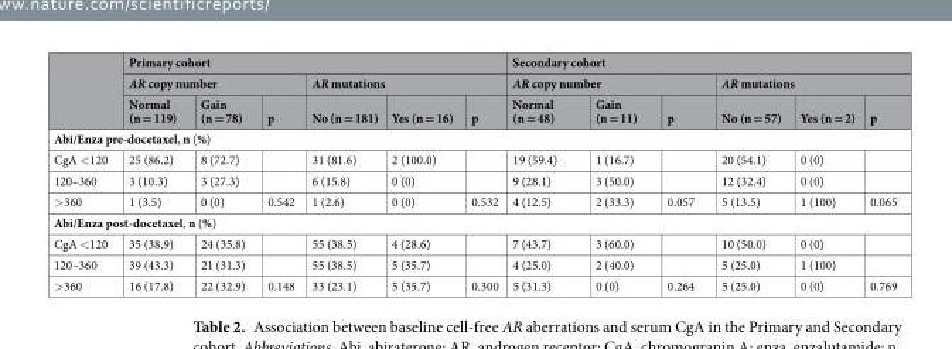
<table><thead><tr><td rowspan="3"></td><td colspan="6">Primary cohort</td><td colspan="6">Secondary cohort</td></tr><tr><td colspan="3">AR copy number</td><td colspan="3">AR mutations</td><td colspan="3">AR copy number</td><td colspan="3">AR mutations</td></tr><tr><td>Normal (n = 119)</td><td>Gain (n = 78)</td><td>p</td><td>No (n = 181)</td><td>Yes (n = 16)</td><td>p</td><td>Normal (n = 48)</td><td>Gain (n = 11)</td><td>p</td><td>No (n = 57)</td><td>Yes (n = 2)</td><td>p</td></tr></thead><tbody><tr><td colspan="13">Abi/Enza pre-docetaxel, n (%)</td></tr><tr><td>CgA &lt;120</td><td>25 (86.2)</td><td>8 (72.7)</td><td></td><td>31 (81.6)</td><td>2 (100.0)</td><td></td><td>19 (59.4)</td><td>1 (16.7)</td><td></td><td>20 (54.1)</td><td>0 (0)</td><td></td></tr><tr><td>120–360</td><td>3 (10.3)</td><td>3 (27.3)</td><td></td><td>6 (15.8)</td><td>0 (0)</td><td></td><td>9 (28.1)</td><td>3 (50.0)</td><td></td><td>12 (32.4)</td><td>0 (0)</td><td></td></tr><tr><td>&gt;360</td><td>1 (3.5)</td><td>0 (0)</td><td>0.542</td><td>1 (2.6)</td><td>0 (0)</td><td>0.532</td><td>4 (12.5)</td><td>2 (33.3)</td><td>0.057</td><td>5 (13.5)</td><td>1 (100)</td><td>0.065</td></tr><tr><td colspan="13">Abi/Enza post-docetaxel, n (%)</td></tr><tr><td>CgA &lt;120</td><td>35 (38.9)</td><td>24 (35.8)</td><td></td><td>55 (38.5)</td><td>4 (28.6)</td><td></td><td>7 (43.7)</td><td>3 (60.0)</td><td></td><td>10 (50.0)</td><td>0 (0)</td><td></td></tr><tr><td>120–360</td><td>39 (43.3)</td><td>21 (31.3)</td><td></td><td>55 (38.5)</td><td>5 (35.7)</td><td></td><td>4 (25.0)</td><td>2 (40.0)</td><td></td><td>5 (25.0)</td><td>1 (100)</td><td></td></tr><tr><td>&gt;360</td><td>16 (17.8)</td><td>22 (32.9)</td><td>0.148</td><td>33 (23.1)</td><td>5 (35.7)</td><td>0.300</td><td>5 (31.3)</td><td>0 (0)</td><td>0.264</td><td>5 (25.0)</td><td>0 (0)</td><td>0.769</td></tr></tbody></table>